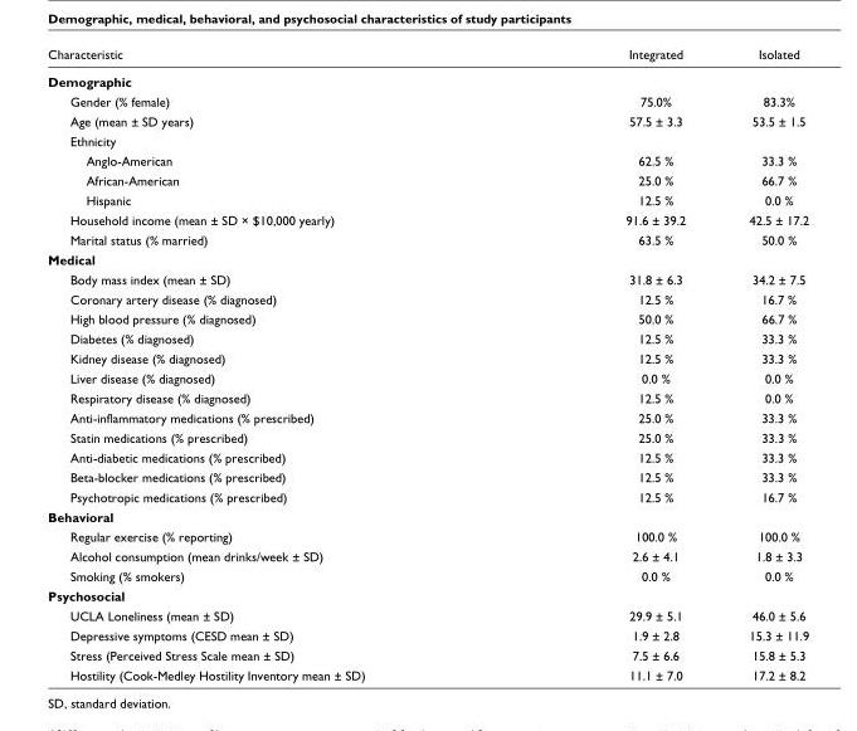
<table><thead><tr><td>Characteristic</td><td>Integrated</td><td>Isolated</td></tr></thead><tbody><tr><td colspan="3">Demographic</td></tr><tr><td>Gender (% female)</td><td>75.0%</td><td>83.3%</td></tr><tr><td>Age (mean ± SD years)</td><td>57.5 ± 3.3</td><td>53.5 ± 1.5</td></tr><tr><td colspan="3">Ethnicity</td></tr><tr><td>Anglo-American</td><td>62.5 %</td><td>33.3 %</td></tr><tr><td>African-American</td><td>25.0 %</td><td>66.7 %</td></tr><tr><td>Hispanic</td><td>12.5 %</td><td>0.0 %</td></tr><tr><td>Household income (mean ± SD × $10,000 yearly)</td><td>91.6 ± 39.2</td><td>42.5 ± 17.2</td></tr><tr><td>Marital status (% married)</td><td>63.5 %</td><td>50.0 %</td></tr><tr><td colspan="3">Medical</td></tr><tr><td>Body mass index (mean ± SD)</td><td>31.8 ± 6.3</td><td>34.2 ± 7.5</td></tr><tr><td>Coronary artery disease (% diagnosed)</td><td>12.5 %</td><td>16.7 %</td></tr><tr><td>High blood pressure (% diagnosed)</td><td>50.0 %</td><td>66.7 %</td></tr><tr><td>Diabetes (% diagnosed)</td><td>12.5 %</td><td>33.3 %</td></tr><tr><td>Kidney disease (% diagnosed)</td><td>12.5 %</td><td>33.3 %</td></tr><tr><td>Liver disease (% diagnosed)</td><td>0.0 %</td><td>0.0 %</td></tr><tr><td>Respiratory disease (% diagnosed)</td><td>12.5 %</td><td>0.0 %</td></tr><tr><td>Anti-inflammatory medications (% prescribed)</td><td>25.0 %</td><td>33.3 %</td></tr><tr><td>Statin medications (% prescribed)</td><td>25.0 %</td><td>33.3 %</td></tr><tr><td>Anti-diabetic medications (% prescribed)</td><td>12.5 %</td><td>33.3 %</td></tr><tr><td>Beta-blocker medications (% prescribed)</td><td>12.5 %</td><td>33.3 %</td></tr><tr><td>Psychotropic medications (% prescribed)</td><td>12.5 %</td><td>16.7 %</td></tr><tr><td colspan="3">Behavioral</td></tr><tr><td>Regular exercise (% reporting)</td><td>100.0 %</td><td>100.0 %</td></tr><tr><td>Alcohol consumption (mean drinks/week ± SD)</td><td>2.6 ± 4.1</td><td>1.8 ± 3.3</td></tr><tr><td>Smoking (% smokers)</td><td>0.0 %</td><td>0.0 %</td></tr><tr><td colspan="3">Psychosocial</td></tr><tr><td>UCLA Loneliness (mean ± SD)</td><td>29.9 ± 5.1</td><td>46.0 ± 5.6</td></tr><tr><td>Depressive symptoms (CESD mean ± SD)</td><td>1.9 ± 2.8</td><td>15.3 ± 11.9</td></tr><tr><td>Stress (Perceived Stress Scale mean ± SD)</td><td>7.5 ± 6.6</td><td>15.8 ± 5.3</td></tr><tr><td>Hostility (Cook-Medley Hostility Inventory mean ± SD)</td><td>11.1 ± 7.0</td><td>17.2 ± 8.2</td></tr></tbody></table>